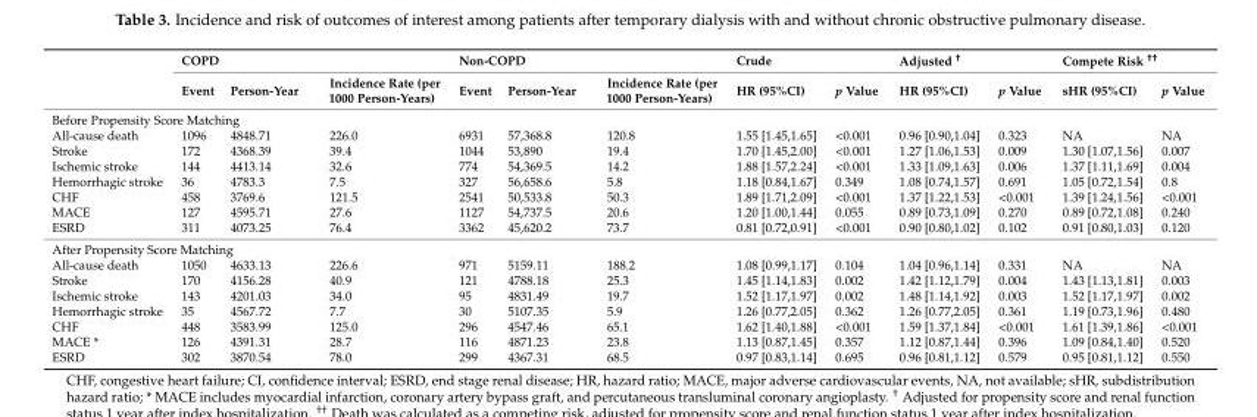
<table><thead><tr><td rowspan="2"></td><td colspan="3">COPD</td><td colspan="3">Non-COPD</td><td colspan="2">Crude</td><td colspan="2">Adjusted <sup>†</sup></td><td colspan="2">Compete Risk <sup>††</sup></td></tr><tr><td>Event</td><td>Person-Year</td><td>Incidence Rate (per 1000 Person-Years)</td><td>Event</td><td>Person-Year</td><td>Incidence Rate (per 1000 Person-Years)</td><td>HR (95%CI)</td><td>p Value</td><td>HR (95%CI)</td><td>p Value</td><td>sHR (95%CI)</td><td>p Value</td></tr></thead><tbody><tr><td colspan="13">Before Propensity Score Matching</td></tr><tr><td>All-cause death</td><td>1096</td><td>4848.71</td><td>226.0</td><td>6931</td><td>57,368.8</td><td>120.8</td><td>1.55 [1.45,1.65]</td><td>&lt;0.001</td><td>0.96 [0.90,1.04]</td><td>0.323</td><td>NA</td><td>NA</td></tr><tr><td>Stroke</td><td>172</td><td>4368.39</td><td>39.4</td><td>1044</td><td>53,890</td><td>19.4</td><td>1.70 [1.45,2.00]</td><td>&lt;0.001</td><td>1.27 [1.06,1.53]</td><td>0.009</td><td>1.30 [1.07,1.56]</td><td>0.007</td></tr><tr><td>Ischemic stroke</td><td>144</td><td>4413.14</td><td>32.6</td><td>774</td><td>54,369.5</td><td>14.2</td><td>1.88 [1.57,2.24]</td><td>&lt;0.001</td><td>1.33 [1.09,1.63]</td><td>0.006</td><td>1.37 [1.11,1.69]</td><td>0.004</td></tr><tr><td>Hemorrhagic stroke</td><td>36</td><td>4783.3</td><td>7.5</td><td>327</td><td>56,658.6</td><td>5.8</td><td>1.18 [0.84,1.67]</td><td>0.349</td><td>1.08 [0.74,1.57]</td><td>0.691</td><td>1.05 [0.72,1.54]</td><td>0.8</td></tr><tr><td>CHF</td><td>458</td><td>3769.6</td><td>121.5</td><td>2541</td><td>50,533.8</td><td>50.3</td><td>1.89 [1.71,2.09]</td><td>&lt;0.001</td><td>1.37 [1.22,1.53]</td><td>&lt;0.001</td><td>1.39 [1.24,1.56]</td><td>&lt;0.001</td></tr><tr><td>MACE</td><td>127</td><td>4595.71</td><td>27.6</td><td>1127</td><td>54,737.5</td><td>20.6</td><td>1.20 [1.00,1.44]</td><td>0.055</td><td>0.89 [0.73,1.09]</td><td>0.270</td><td>0.89 [0.72,1.08]</td><td>0.240</td></tr><tr><td>ESRD</td><td>311</td><td>4073.25</td><td>76.4</td><td>3362</td><td>45,620.2</td><td>73.7</td><td>0.81 [0.72,0.91]</td><td>&lt;0.001</td><td>0.90 [0.80,1.02]</td><td>0.102</td><td>0.91 [0.80,1.03]</td><td>0.120</td></tr><tr><td colspan="13">After Propensity Score Matching</td></tr><tr><td>All-cause death</td><td>1050</td><td>4633.13</td><td>226.6</td><td>971</td><td>5159.11</td><td>188.2</td><td>1.08 [0.99,1.17]</td><td>0.104</td><td>1.04 [0.96,1.14]</td><td>0.331</td><td>NA</td><td>NA</td></tr><tr><td>Stroke</td><td>170</td><td>4156.28</td><td>40.9</td><td>121</td><td>4788.18</td><td>25.3</td><td>1.45 [1.14,1.83]</td><td>0.002</td><td>1.42 [1.12,1.79]</td><td>0.004</td><td>1.43 [1.13,1.81]</td><td>0.003</td></tr><tr><td>Ischemic stroke</td><td>143</td><td>4201.03</td><td>34.0</td><td>95</td><td>4831.49</td><td>19.7</td><td>1.52 [1.17,1.97]</td><td>0.002</td><td>1.48 [1.14,1.92]</td><td>0.003</td><td>1.52 [1.17,1.97]</td><td>0.002</td></tr><tr><td>Hemorrhagic stroke</td><td>35</td><td>4567.72</td><td>7.7</td><td>30</td><td>5107.35</td><td>5.9</td><td>1.26 [0.77,2.05]</td><td>0.362</td><td>1.26 [0.77,2.05]</td><td>0.361</td><td>1.19 [0.73,1.96]</td><td>0.480</td></tr><tr><td>CHF</td><td>448</td><td>3583.99</td><td>125.0</td><td>296</td><td>4547.46</td><td>65.1</td><td>1.62 [1.40,1.88]</td><td>&lt;0.001</td><td>1.59 [1.37,1.84]</td><td>&lt;0.001</td><td>1.61 [1.39,1.86]</td><td>&lt;0.001</td></tr><tr><td>MACE *</td><td>126</td><td>4391.31</td><td>28.7</td><td>116</td><td>4871.23</td><td>23.8</td><td>1.13 [0.87,1.45]</td><td>0.357</td><td>1.12 [0.87,1.44]</td><td>0.396</td><td>1.09 [0.84,1.40]</td><td>0.520</td></tr><tr><td>ESRD</td><td>302</td><td>3870.54</td><td>78.0</td><td>299</td><td>4367.31</td><td>68.5</td><td>0.97 [0.83,1.14]</td><td>0.695</td><td>0.96 [0.81,1.12]</td><td>0.579</td><td>0.95 [0.81,1.12]</td><td>0.550</td></tr></tbody></table>